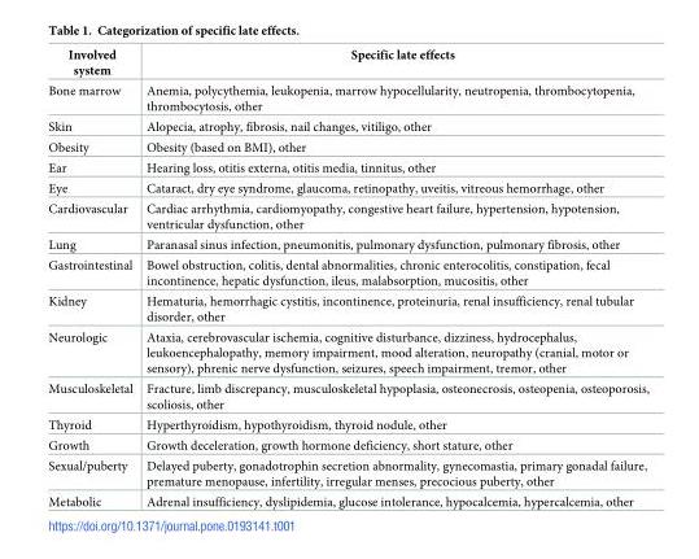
<table><thead><tr><td>Involved system</td><td>Specific late effects</td></tr></thead><tbody><tr><td>Bone marrow</td><td>Anemia, polycythemia, leukopenia, marrow hypocellularity, neutropenia, thrombocytopenia, thrombocytosis, other</td></tr><tr><td>Skin</td><td>Alopecia, atrophy, fibrosis, nail changes, vitiligo, other</td></tr><tr><td>Obesity</td><td>Obesity (based on BMI), other</td></tr><tr><td>Ear</td><td>Hearing loss, otitis externa, otitis media, tinnitus, other</td></tr><tr><td>Eye</td><td>Cataract, dry eye syndrome, glaucoma, retinopathy, uveitis, vitreous hemorrhage, other</td></tr><tr><td>Cardiovascular</td><td>Cardiac arrhythmia, cardiomyopathy, congestive heart failure, hypertension, hypotension, ventricular dysfunction, other</td></tr><tr><td>Lung</td><td>Paranasal sinus infection, pneumonitis, pulmonary dysfunction, pulmonary fibrosis, other</td></tr><tr><td>Gastrointestinal</td><td>Bowel obstruction, colitis, dental abnormalities, chronic enterocolitis, constipation, fecal incontinence, hepatic dysfunction, ileus, malabsorption, mucositis, other</td></tr><tr><td>Kidney</td><td>Hematuria, hemorrhagic cystitis, incontinence, proteinuria, renal insufficiency, renal tubular disorder, other</td></tr><tr><td>Neurologic</td><td>Ataxia, cerebrovascular ischemia, cognitive disturbance, dizziness, hydrocephalus, leukoencephalopathy, memory impairment, mood alteration, neuropathy (cranial, motor or sensory), phrenic nerve dysfunction, seizures, speech impairment, tremor, other</td></tr><tr><td>Musculoskeletal</td><td>Fracture, limb discrepancy, musculoskeletal hypoplasia, osteonecrosis, osteopenia, osteoporosis, scoliosis, other</td></tr><tr><td>Thyroid</td><td>Hyperthyroidism, hypothyroidism, thyroid nodule, other</td></tr><tr><td>Growth</td><td>Growth deceleration, growth hormone deficiency, short stature, other</td></tr><tr><td>Sexual/puberty</td><td>Delayed puberty, gonadotrophin secretion abnormality, gynecomastia, primary gonadal failure, premature menopause, infertility, irregular menses, precocious puberty, other</td></tr><tr><td>Metabolic</td><td>Adrenal insufficiency, dyslipidemia, glucose intolerance, hypocalcemia, hypercalcemia, other</td></tr></tbody></table>